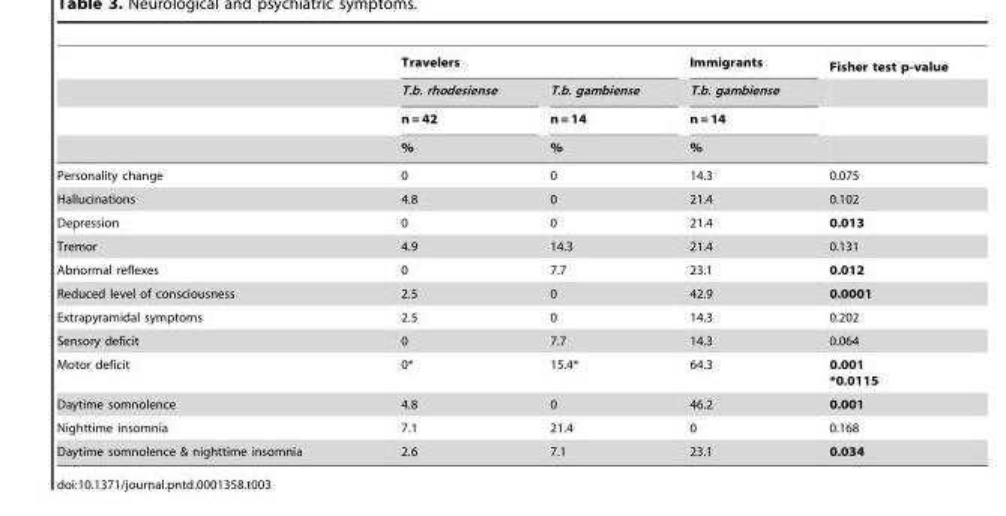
<table><thead><tr><td rowspan="4"></td><td colspan="2">Travelers</td><td rowspan="4">Immigrants T.b. gambiense n = 14 %</td><td rowspan="4">Fisher test p-value</td></tr><tr><td rowspan="3">T.b. rhodesiense n = 42 %</td><td rowspan="3">T.b. gambiense n = 14 %</td></tr><tr></tr><tr></tr></thead><tbody><tr><td>Personality change</td><td>0</td><td>0</td><td>14.3</td><td>0.075</td></tr><tr><td>Hallucinations</td><td>4.8</td><td>0</td><td>21.4</td><td>0.102</td></tr><tr><td>Depression</td><td>0</td><td>0</td><td>21.4</td><td>0.013</td></tr><tr><td>Tremor</td><td>4.9</td><td>14.3</td><td>21.4</td><td>0.131</td></tr><tr><td>Abnormal reflexes</td><td>0</td><td>7.7</td><td>23.1</td><td>0.012</td></tr><tr><td>Reduced level of consciousness</td><td>2.5</td><td>0</td><td>42.9</td><td>0.0001</td></tr><tr><td>Extrapyramidal symptoms</td><td>2.5</td><td>0</td><td>14.3</td><td>0.202</td></tr><tr><td>Sensory deficit</td><td>0</td><td>7.7</td><td>14.3</td><td>0.064</td></tr><tr><td>Motor deficit</td><td>0*</td><td>15.4*</td><td>64.3</td><td>0.001 *0.0115</td></tr><tr><td>Daytime somnolence</td><td>4.8</td><td>0</td><td>46.2</td><td>0.001</td></tr><tr><td>Nighttime insomnia</td><td>7.1</td><td>21.4</td><td>0</td><td>0.168</td></tr><tr><td>Daytime somnolence &amp; nighttime insomnia</td><td>2.6</td><td>7.1</td><td>23.1</td><td>0.034</td></tr></tbody></table>